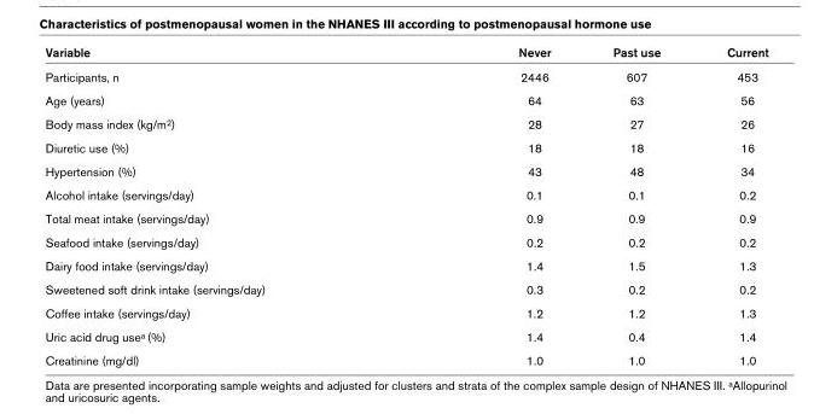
<table><thead><tr><td>Variable</td><td>Never</td><td>Past use</td><td>Current</td></tr></thead><tbody><tr><td>Participants, n</td><td>2446</td><td>607</td><td>453</td></tr><tr><td>Age (years)</td><td>64</td><td>63</td><td>56</td></tr><tr><td>Body mass index (kg/m<sup>2</sup>)</td><td>28</td><td>27</td><td>26</td></tr><tr><td>Diuretic use (%)</td><td>18</td><td>18</td><td>16</td></tr><tr><td>Hypertension (%)</td><td>43</td><td>48</td><td>34</td></tr><tr><td>Alcohol intake (servings/day)</td><td>0.1</td><td>0.1</td><td>0.2</td></tr><tr><td>Total meat intake (servings/day)</td><td>0.9</td><td>0.9</td><td>0.9</td></tr><tr><td>Seafood intake (servings/day)</td><td>0.2</td><td>0.2</td><td>0.2</td></tr><tr><td>Dairy food intake (servings/day)</td><td>1.4</td><td>1.5</td><td>1.3</td></tr><tr><td>Sweetened soft drink intake (servings/day)</td><td>0.3</td><td>0.2</td><td>0.2</td></tr><tr><td>Coffee intake (servings/day)</td><td>1.2</td><td>1.2</td><td>1.3</td></tr><tr><td>Uric acid drug use<sup>a</sup> (%)</td><td>1.4</td><td>0.4</td><td>1.4</td></tr><tr><td>Creatinine (mg/dl)</td><td>1.0</td><td>1.0</td><td>1.0</td></tr></tbody></table>